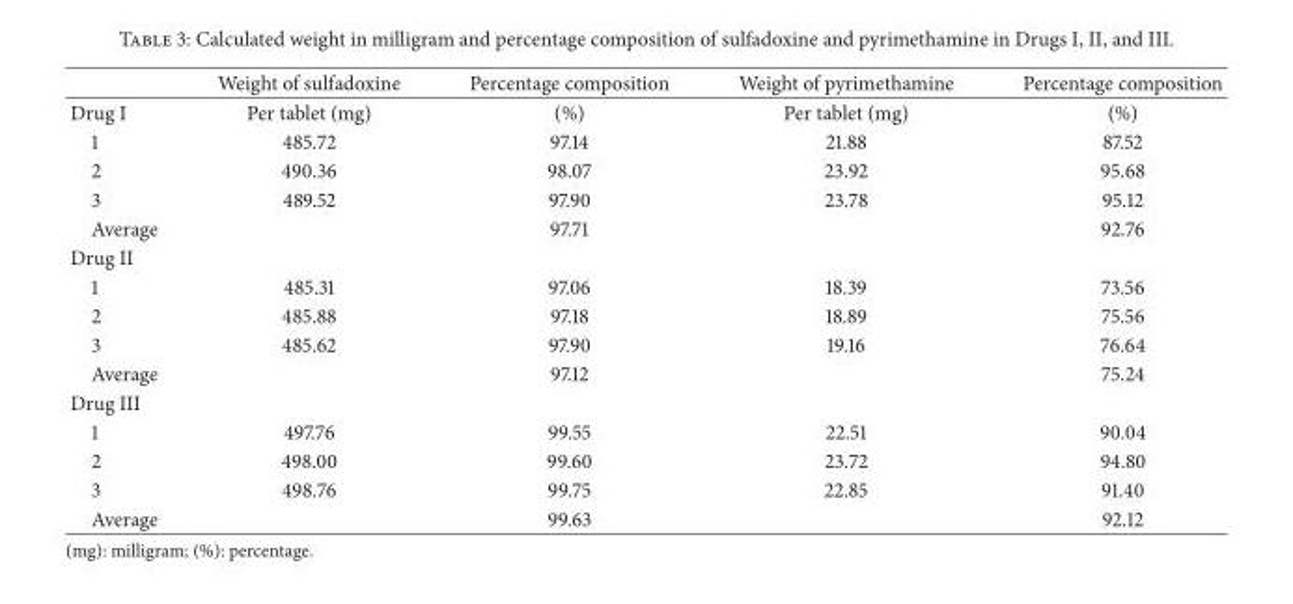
<table><thead><tr><td></td><td>Weight of sulfadoxine</td><td>Percentage composition</td><td>Weight of pyrimethamine</td><td>Percentage composition</td></tr></thead><tbody><tr><td>Drug I</td><td>Per tablet (mg)</td><td>(%)</td><td>Per tablet (mg)</td><td>(%)</td></tr><tr><td>1</td><td>485.72</td><td>97.14</td><td>21.88</td><td>87.52</td></tr><tr><td>2</td><td>490.36</td><td>98.07</td><td>23.92</td><td>95.68</td></tr><tr><td>3</td><td>489.52</td><td>97.90</td><td>23.78</td><td>95.12</td></tr><tr><td>Average</td><td></td><td>97.71</td><td></td><td>92.76</td></tr><tr><td colspan="5">Drug II</td></tr><tr><td>1</td><td>485.31</td><td>97.06</td><td>18.39</td><td>73.56</td></tr><tr><td>2</td><td>485.88</td><td>97.18</td><td>18.89</td><td>75.56</td></tr><tr><td>3</td><td>485.62</td><td>97.90</td><td>19.16</td><td>76.64</td></tr><tr><td>Average</td><td></td><td>97.12</td><td></td><td>75.24</td></tr><tr><td colspan="5">Drug III</td></tr><tr><td>1</td><td>497.76</td><td>99.55</td><td>22.51</td><td>90.04</td></tr><tr><td>2</td><td>498.00</td><td>99.60</td><td>23.72</td><td>94.80</td></tr><tr><td>3</td><td>498.76</td><td>99.75</td><td>22.85</td><td>91.40</td></tr><tr><td>Average</td><td></td><td>99.63</td><td></td><td>92.12</td></tr></tbody></table>